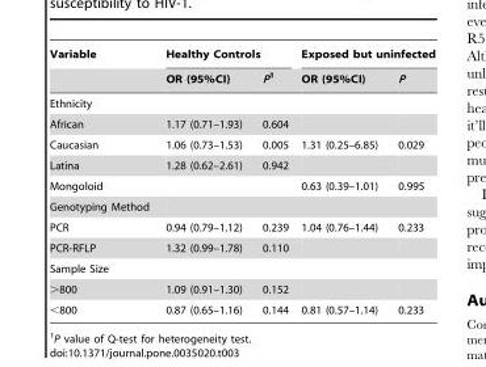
<table><thead><tr><td rowspan="2">Variable</td><td colspan="2">Healthy Controls</td><td colspan="2">Exposed but uninfected</td></tr><tr><td>OR (95%CI)</td><td>P1</td><td>OR (95%CI)</td><td>P</td></tr></thead><tbody><tr><td colspan="5">Ethnicity</td></tr><tr><td>African</td><td>1.17 (0.71–1.93)</td><td>0.604</td><td></td><td></td></tr><tr><td>Caucasian</td><td>1.06 (0.73–1.53)</td><td>0.005</td><td>1.31 (0.25–6.85)</td><td>0.029</td></tr><tr><td>Latina</td><td>1.28 (0.62–2.61)</td><td>0.942</td><td></td><td></td></tr><tr><td>Mongoloid</td><td></td><td></td><td>0.63 (0.39–1.01)</td><td>0.995</td></tr><tr><td colspan="5">Genotyping Method</td></tr><tr><td>PCR</td><td>0.94 (0.79–1.12)</td><td>0.239</td><td>1.04 (0.76–1.44)</td><td>0.233</td></tr><tr><td>PCR-RFLP</td><td>1.32 (0.99–1.78)</td><td>0.110</td><td></td><td></td></tr><tr><td colspan="5">Sample Size</td></tr><tr><td>&gt;800</td><td>1.09 (0.91–1.30)</td><td>0.152</td><td></td><td></td></tr><tr><td>&lt;800</td><td>0.87 (0.65–1.16)</td><td>0.144</td><td>0.81 (0.57–1.14)</td><td>0.233</td></tr></tbody></table>